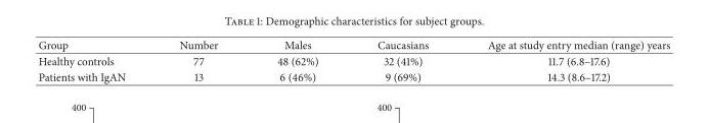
<table><thead><tr><td>Group</td><td>Number</td><td>Males</td><td>Caucasians</td><td>Age at study entry median (range) years</td></tr></thead><tbody><tr><td>Healthy controls</td><td>77</td><td>48 (62%)</td><td>32 (41%)</td><td>11.7 (6.8–17.6)</td></tr><tr><td>Patients with IgAN</td><td>13</td><td>6 (46%)</td><td>9 (69%)</td><td>14.3 (8.6–17.2)</td></tr></tbody></table>